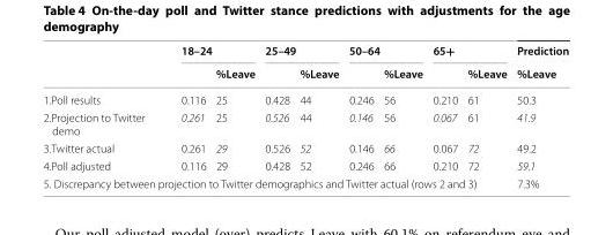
<table><thead><tr><td rowspan="2"></td><td colspan="2">18–24</td><td colspan="2">25–49</td><td colspan="2">50–64</td><td colspan="2">65+</td><td rowspan="2">Prediction %Leave</td></tr><tr><td></td><td>%Leave</td><td></td><td>%Leave</td><td></td><td>%Leave</td><td></td><td>%Leave</td></tr></thead><tbody><tr><td>1.Poll results</td><td>0.116</td><td>25</td><td>0.428</td><td>44</td><td>0.246</td><td>56</td><td>0.210</td><td>61</td><td>50.3</td></tr><tr><td>2.Projection to Twitter demo</td><td>0.261</td><td>25</td><td>0.526</td><td>44</td><td>0.146</td><td>56</td><td>0.067</td><td>61</td><td>41.9</td></tr><tr><td>3.Twitter actual</td><td>0.261</td><td>29</td><td>0.526</td><td>52</td><td>0.146</td><td>66</td><td>0.067</td><td>72</td><td>49.2</td></tr><tr><td>4.Poll adjusted</td><td>0.116</td><td>29</td><td>0.428</td><td>52</td><td>0.246</td><td>66</td><td>0.210</td><td>72</td><td>59.1</td></tr><tr><td colspan="9">5. Discrepancy between projection to Twitter demographics and Twitter actual (rows 2 and 3)</td><td>7.3%</td></tr></tbody></table>